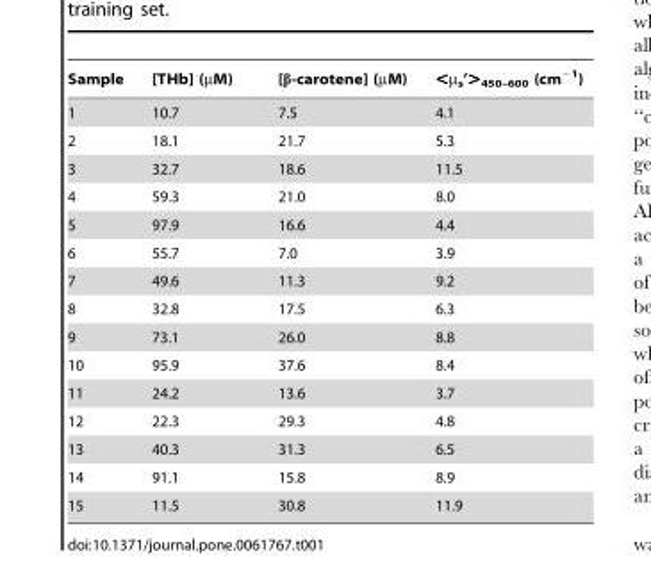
<table><thead><tr><td>Sample</td><td>[THb] (µM)</td><td>[β-carotene] (µM)</td><td>&lt;µ<sub>s</sub>’&gt;<sub>450–600</sub> (cm<sup>−1</sup>)</td></tr></thead><tbody><tr><td>1</td><td>10.7</td><td>7.5</td><td>4.1</td></tr><tr><td>2</td><td>18.1</td><td>21.7</td><td>5.3</td></tr><tr><td>3</td><td>32.7</td><td>18.6</td><td>11.5</td></tr><tr><td>4</td><td>59.3</td><td>21.0</td><td>8.0</td></tr><tr><td>5</td><td>97.9</td><td>16.6</td><td>4.4</td></tr><tr><td>6</td><td>55.7</td><td>7.0</td><td>3.9</td></tr><tr><td>7</td><td>49.6</td><td>11.3</td><td>9.2</td></tr><tr><td>8</td><td>32.8</td><td>17.5</td><td>6.3</td></tr><tr><td>9</td><td>73.1</td><td>26.0</td><td>8.8</td></tr><tr><td>10</td><td>95.9</td><td>37.6</td><td>8.4</td></tr><tr><td>11</td><td>24.2</td><td>13.6</td><td>3.7</td></tr><tr><td>12</td><td>22.3</td><td>29.3</td><td>4.8</td></tr><tr><td>13</td><td>40.3</td><td>31.3</td><td>6.5</td></tr><tr><td>14</td><td>91.1</td><td>15.8</td><td>8.9</td></tr><tr><td>15</td><td>11.5</td><td>30.8</td><td>11.9</td></tr></tbody></table>